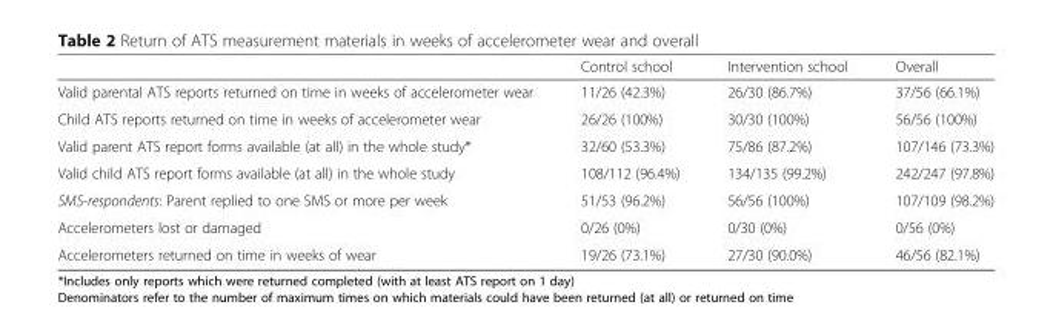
<table><thead><tr><td></td><td>Control school</td><td>Intervention school</td><td>Overall</td></tr></thead><tbody><tr><td>Valid parental ATS reports returned on time in weeks of accelerometer wear</td><td>11/26 (42.3%)</td><td>26/30 (86.7%)</td><td>37/56 (66.1%)</td></tr><tr><td>Child ATS reports returned on time in weeks of accelerometer wear</td><td>26/26 (100%)</td><td>30/30 (100%)</td><td>56/56 (100%)</td></tr><tr><td>Valid parent ATS report forms available (at all) in the whole study*</td><td>32/60 (53.3%)</td><td>75/86 (87.2%)</td><td>107/146 (73.3%)</td></tr><tr><td>Valid child ATS report forms available (at all) in the whole study</td><td>108/112 (96.4%)</td><td>134/135 (99.2%)</td><td>242/247 (97.8%)</td></tr><tr><td>SMS-respondents: Parent replied to one SMS or more per week</td><td>51/53 (96.2%)</td><td>56/56 (100%)</td><td>107/109 (98.2%)</td></tr><tr><td>Accelerometers lost or damaged</td><td>0/26 (0%)</td><td>0/30 (0%)</td><td>0/56 (0%)</td></tr><tr><td>Accelerometers returned on time in weeks of wear</td><td>19/26 (73.1%)</td><td>27/30 (90.0%)</td><td>46/56 (82.1%)</td></tr></tbody></table>